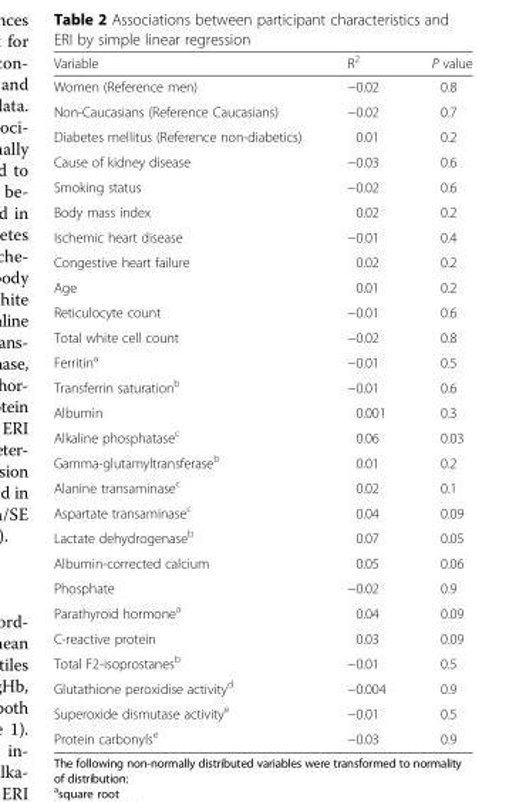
<table><thead><tr><td>Variable</td><td>R<sup>2</sup></td><td>P value</td></tr></thead><tbody><tr><td>Women (Reference men)</td><td>−0.02</td><td>0.8</td></tr><tr><td>Non-Caucasians (Reference Caucasians)</td><td>−0.02</td><td>0.7</td></tr><tr><td>Diabetes mellitus (Reference non-diabetics)</td><td>0.01</td><td>0.2</td></tr><tr><td>Cause of kidney disease</td><td>−0.03</td><td>0.6</td></tr><tr><td>Smoking status</td><td>−0.02</td><td>0.6</td></tr><tr><td>Body mass index</td><td>0.02</td><td>0.2</td></tr><tr><td>Ischemic heart disease</td><td>−0.01</td><td>0.4</td></tr><tr><td>Congestive heart failure</td><td>0.02</td><td>0.2</td></tr><tr><td>Age</td><td>0.01</td><td>0.2</td></tr><tr><td>Reticulocyte count</td><td>−0.01</td><td>0.6</td></tr><tr><td>Total white cell count</td><td>−0.02</td><td>0.8</td></tr><tr><td>Ferritin<sup>a</sup></td><td>−0.01</td><td>0.5</td></tr><tr><td>Transferrin saturation<sup>b</sup></td><td>−0.01</td><td>0.6</td></tr><tr><td>Albumin</td><td>0.001</td><td>0.3</td></tr><tr><td>Alkaline phosphatase<sup>c</sup></td><td>0.06</td><td>0.03</td></tr><tr><td>Gamma-glutamyltransferase<sup>b</sup></td><td>0.01</td><td>0.2</td></tr><tr><td>Alanine transaminase<sup>c</sup></td><td>0.02</td><td>0.1</td></tr><tr><td>Aspartate transaminase<sup>c</sup></td><td>0.04</td><td>0.09</td></tr><tr><td>Lactate dehydrogenase<sup>b</sup></td><td>0.07</td><td>0.05</td></tr><tr><td>Albumin-corrected calcium</td><td>0.05</td><td>0.06</td></tr><tr><td>Phosphate</td><td>−0.02</td><td>0.9</td></tr><tr><td>Parathyroid hormone<sup>a</sup></td><td>0.04</td><td>0.09</td></tr><tr><td>C-reactive protein</td><td>0.03</td><td>0.09</td></tr><tr><td>Total F2-isoprostanes<sup>b</sup></td><td>−0.01</td><td>0.5</td></tr><tr><td>Glutathione peroxidise activity<sup>d</sup></td><td>−0.004</td><td>0.9</td></tr><tr><td>Superoxide dismutase activity<sup>e</sup></td><td>−0.01</td><td>0.5</td></tr><tr><td>Protein carbonyls<sup>e</sup></td><td>−0.03</td><td>0.9</td></tr></tbody></table>